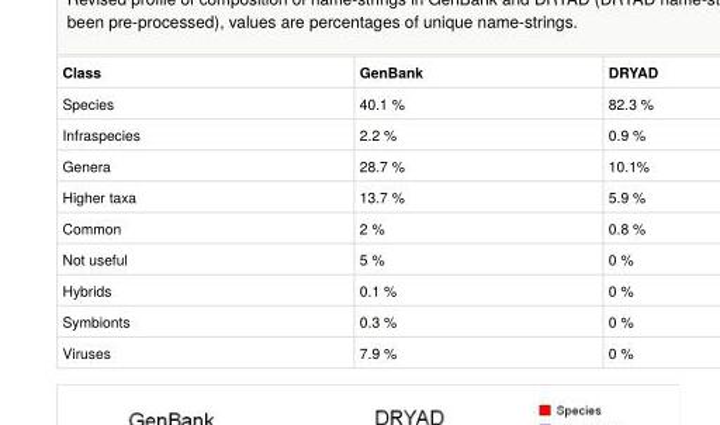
<table><tbody><tr><td>Class</td><td>GenBank</td><td>DRYAD</td></tr><tr><td>Species</td><td>40.1 %</td><td>82.3 %</td></tr><tr><td>Infraspecies</td><td>2.2 %</td><td>0.9 %</td></tr><tr><td>Genera</td><td>28.7 %</td><td>10.1%</td></tr><tr><td>Higher taxa</td><td>13.7 %</td><td>5.9 %</td></tr><tr><td>Common</td><td>2 %</td><td>0.8 %</td></tr><tr><td>Not useful</td><td>5 %</td><td>0 %</td></tr><tr><td>Hybrids</td><td>0.1 %</td><td>0 %</td></tr><tr><td>Symbionts</td><td>0.3 %</td><td>0 %</td></tr><tr><td>Viruses</td><td>7.9 %</td><td>0 %</td></tr></tbody></table>